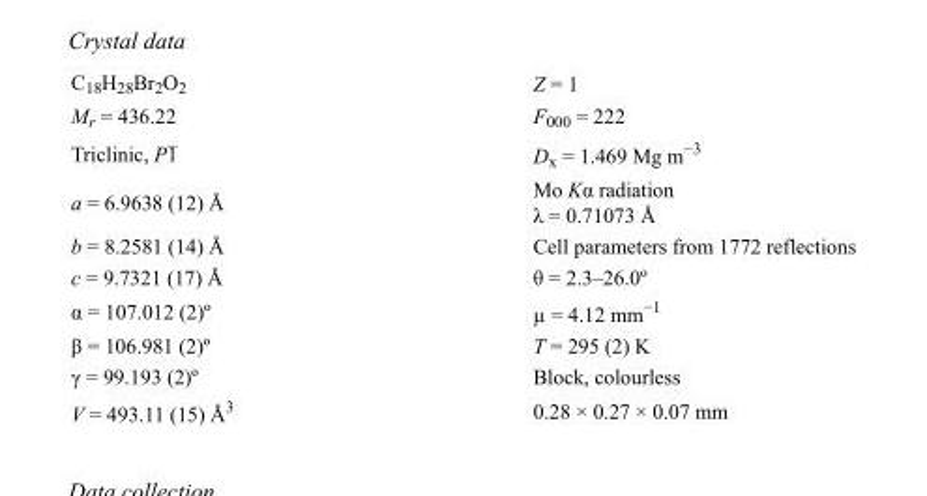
<table><tbody><tr><td>C<sub>18</sub>H<sub>28</sub>Br<sub>2</sub>O<sub>2</sub></td><td>Z = 1</td></tr><tr><td>M<sub>r</sub> = 436.22</td><td>F000 = 222</td></tr><tr><td>Triclinic, P1</td><td>D<sub>x</sub> = 1.469 Mg m<sup>−3</sup></td></tr><tr><td>a = 6.9638 (12) Å</td><td>Mo Kα radiation λ = 0.71073 Å</td></tr><tr><td>b = 8.2581 (14) Å</td><td>Cell parameters from 1772 reflections</td></tr><tr><td>c = 9.7321 (17) Å</td><td>θ = 2.3–26.0º</td></tr><tr><td>α = 107.012 (2)º</td><td>µ = 4.12 mm<sup>−1</sup></td></tr><tr><td>β = 106.981 (2)º</td><td>T = 295 (2) K</td></tr><tr><td>γ = 99.193 (2)º</td><td>Block, colourless</td></tr><tr><td>V = 493.11 (15) Å<sup>3</sup></td><td>0.28 × 0.27 × 0.07 mm</td></tr></tbody></table>